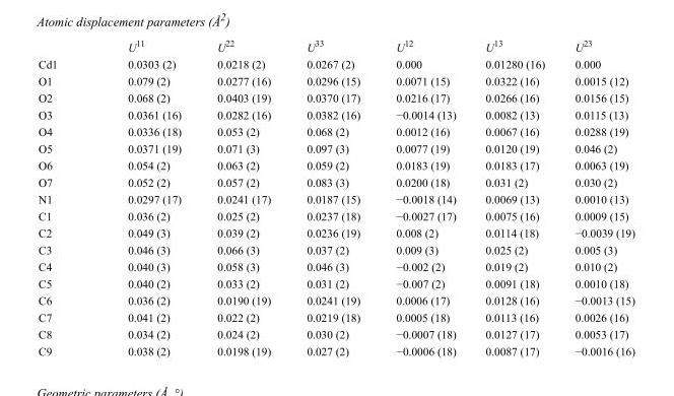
<table><thead><tr><td></td><td>U<sup>11</sup></td><td>U<sup>22</sup></td><td>U<sup>33</sup></td><td>U<sup>12</sup></td><td>U<sup>13</sup></td><td>U<sup>23</sup></td></tr></thead><tbody><tr><td>Cd1</td><td>0.0303 (2)</td><td>0.0218 (2)</td><td>0.0267 (2)</td><td>0.000</td><td>0.01280 (16)</td><td>0.000</td></tr><tr><td>O1</td><td>0.079 (2)</td><td>0.0277 (16)</td><td>0.0296 (15)</td><td>0.0071 (15)</td><td>0.0322 (16)</td><td>0.0015 (12)</td></tr><tr><td>O2</td><td>0.068 (2)</td><td>0.0403 (19)</td><td>0.0370 (17)</td><td>0.0216 (17)</td><td>0.0266 (16)</td><td>0.0156 (15)</td></tr><tr><td>O3</td><td>0.0361 (16)</td><td>0.0282 (16)</td><td>0.0382 (16)</td><td>−0.0014 (13)</td><td>0.0082 (13)</td><td>0.0115 (13)</td></tr><tr><td>O4</td><td>0.0336 (18)</td><td>0.053 (2)</td><td>0.068 (2)</td><td>0.0012 (16)</td><td>0.0067 (16)</td><td>0.0288 (19)</td></tr><tr><td>O5</td><td>0.0371 (19)</td><td>0.071 (3)</td><td>0.097 (3)</td><td>0.0077 (19)</td><td>0.0120 (19)</td><td>0.046 (2)</td></tr><tr><td>O6</td><td>0.054 (2)</td><td>0.063 (2)</td><td>0.059 (2)</td><td>0.0183 (19)</td><td>0.0183 (17)</td><td>0.0063 (19)</td></tr><tr><td>O7</td><td>0.052 (2)</td><td>0.057 (2)</td><td>0.083 (3)</td><td>0.0200 (18)</td><td>0.031 (2)</td><td>0.030 (2)</td></tr><tr><td>N1</td><td>0.0297 (17)</td><td>0.0241 (17)</td><td>0.0187 (15)</td><td>−0.0018 (14)</td><td>0.0069 (13)</td><td>0.0010 (13)</td></tr><tr><td>C1</td><td>0.036 (2)</td><td>0.025 (2)</td><td>0.0237 (18)</td><td>−0.0027 (17)</td><td>0.0075 (16)</td><td>0.0009 (15)</td></tr><tr><td>C2</td><td>0.049 (3)</td><td>0.039 (2)</td><td>0.0236 (19)</td><td>0.008 (2)</td><td>0.0114 (18)</td><td>−0.0039 (19)</td></tr><tr><td>C3</td><td>0.046 (3)</td><td>0.066 (3)</td><td>0.037 (2)</td><td>0.009 (3)</td><td>0.025 (2)</td><td>0.005 (3)</td></tr><tr><td>C4</td><td>0.040 (3)</td><td>0.058 (3)</td><td>0.046 (3)</td><td>−0.002 (2)</td><td>0.019 (2)</td><td>0.010 (2)</td></tr><tr><td>C5</td><td>0.040 (2)</td><td>0.033 (2)</td><td>0.031 (2)</td><td>−0.007 (2)</td><td>0.0091 (18)</td><td>0.0010 (18)</td></tr><tr><td>C6</td><td>0.036 (2)</td><td>0.0190 (19)</td><td>0.0241 (19)</td><td>0.0006 (17)</td><td>0.0128 (16)</td><td>−0.0013 (15)</td></tr><tr><td>C7</td><td>0.041 (2)</td><td>0.022 (2)</td><td>0.0219 (18)</td><td>0.0005 (18)</td><td>0.0113 (16)</td><td>0.0026 (16)</td></tr><tr><td>C8</td><td>0.034 (2)</td><td>0.024 (2)</td><td>0.030 (2)</td><td>−0.0007 (18)</td><td>0.0127 (17)</td><td>0.0053 (17)</td></tr><tr><td>C9</td><td>0.038 (2)</td><td>0.0198 (19)</td><td>0.027 (2)</td><td>−0.0006 (18)</td><td>0.0087 (17)</td><td>−0.0016 (16)</td></tr></tbody></table>